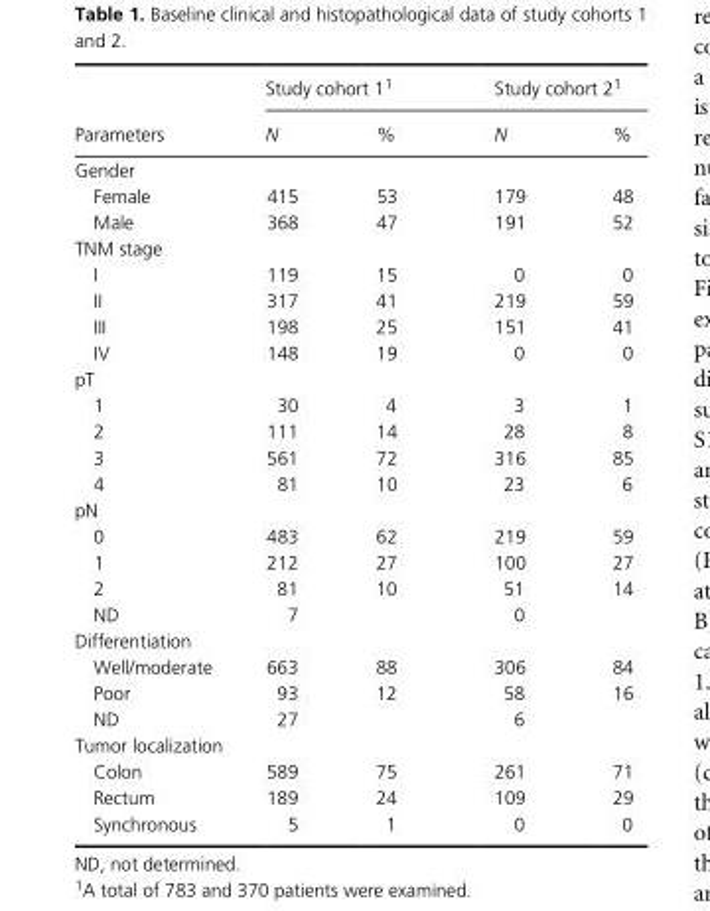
<table><thead><tr><td rowspan="2">Parameters</td><td colspan="2">Study cohort 11</td><td colspan="2">Study cohort 21</td></tr><tr><td>N</td><td>%</td><td>N</td><td>%</td></tr></thead><tbody><tr><td colspan="5">Gender</td></tr><tr><td>Female</td><td>415</td><td>53</td><td>179</td><td>48</td></tr><tr><td>Male</td><td>368</td><td>47</td><td>191</td><td>52</td></tr><tr><td colspan="5">TNM stage</td></tr><tr><td>I</td><td>119</td><td>15</td><td>0</td><td>0</td></tr><tr><td>II</td><td>317</td><td>41</td><td>219</td><td>59</td></tr><tr><td>III</td><td>198</td><td>25</td><td>151</td><td>41</td></tr><tr><td>IV</td><td>148</td><td>19</td><td>0</td><td>0</td></tr><tr><td colspan="5">pT</td></tr><tr><td>1</td><td>30</td><td>4</td><td>3</td><td>1</td></tr><tr><td>2</td><td>111</td><td>14</td><td>28</td><td>8</td></tr><tr><td>3</td><td>561</td><td>72</td><td>316</td><td>85</td></tr><tr><td>4</td><td>81</td><td>10</td><td>23</td><td>6</td></tr><tr><td colspan="5">pN</td></tr><tr><td>0</td><td>483</td><td>62</td><td>219</td><td>59</td></tr><tr><td>1</td><td>212</td><td>27</td><td>100</td><td>27</td></tr><tr><td>2</td><td>81</td><td>10</td><td>51</td><td>14</td></tr><tr><td>ND</td><td>7</td><td></td><td>0</td><td></td></tr><tr><td colspan="5">Differentiation</td></tr><tr><td>Well/moderate</td><td>663</td><td>88</td><td>306</td><td>84</td></tr><tr><td>Poor</td><td>93</td><td>12</td><td>58</td><td>16</td></tr><tr><td>ND</td><td>27</td><td></td><td>6</td><td></td></tr><tr><td colspan="5">Tumor localization</td></tr><tr><td>Colon</td><td>589</td><td>75</td><td>261</td><td>71</td></tr><tr><td>Rectum</td><td>189</td><td>24</td><td>109</td><td>29</td></tr><tr><td>Synchronous</td><td>5</td><td>1</td><td>0</td><td>0</td></tr></tbody></table>